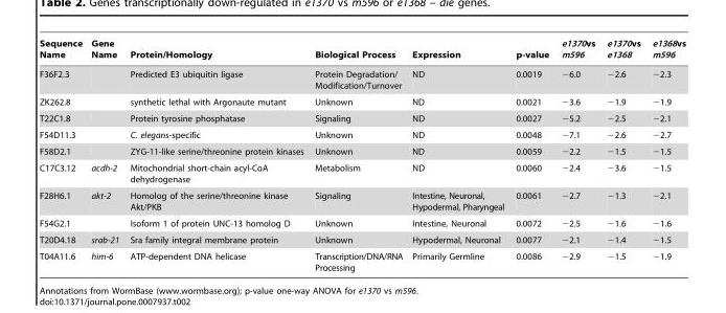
<table><thead><tr><td>Sequence Name</td><td>Gene Name</td><td>Protein/Homology</td><td>Biological Process</td><td>Expression</td><td>p-value</td><td>e1370vs m596</td><td>e1370vs e1368</td><td>e1368vs m596</td></tr></thead><tbody><tr><td>F36F2.3</td><td></td><td>Predicted E3 ubiquitin ligase</td><td>Protein Degradation/ Modification/Turnover</td><td>ND</td><td>0.0019</td><td>−6.0</td><td>−2.6</td><td>−2.3</td></tr><tr><td>ZK262.8</td><td></td><td>synthetic lethal with Argonaute mutant</td><td>Unknown</td><td>ND</td><td>0.0021</td><td>−3.6</td><td>−1.9</td><td>−1.9</td></tr><tr><td>T22C1.8</td><td></td><td>Protein tyrosine phosphatase</td><td>Signaling</td><td>ND</td><td>0.0027</td><td>−5.2</td><td>−2.5</td><td>−2.1</td></tr><tr><td>F54D11.3</td><td></td><td>C. elegans-specific</td><td>Unknown</td><td>ND</td><td>0.0048</td><td>−7.1</td><td>−2.6</td><td>−2.7</td></tr><tr><td>F58D2.1</td><td></td><td>ZYG-11-like serine/threonine protein kinases</td><td>Unknown</td><td>ND</td><td>0.0059</td><td>−2.2</td><td>−1.5</td><td>−1.5</td></tr><tr><td>C17C3.12</td><td>acdh-2</td><td>Mitochondrial short-chain acyl-CoA dehydrogenase</td><td>Metabolism</td><td>ND</td><td>0.0060</td><td>−2.4</td><td>−3.6</td><td>−1.5</td></tr><tr><td>F28H6.1</td><td>akt-2</td><td>Homolog of the serine/threonine kinase Akt/PKB</td><td>Signaling</td><td>Intestine, Neuronal, Hypodermal, Pharyngeal</td><td>0.0061</td><td>−2.7</td><td>−1.3</td><td>−2.1</td></tr><tr><td>F54G2.1</td><td></td><td>Isoform 1 of protein UNC-13 homolog D</td><td>Unknown</td><td>Intestine, Neuronal</td><td>0.0072</td><td>−2.5</td><td>−1.6</td><td>−1.6</td></tr><tr><td>T20D4.18</td><td>srab-21</td><td>Sra family integral membrane protein</td><td>Unknown</td><td>Hypodermal, Neuronal</td><td>0.0077</td><td>−2.1</td><td>−1.4</td><td>−1.5</td></tr><tr><td>T04A11.6</td><td>him-6</td><td>ATP-dependent DNA helicase</td><td>Transcription/DNA/RNA Processing</td><td>Primarily Germline</td><td>0.0086</td><td>−2.9</td><td>−1.5</td><td>−1.9</td></tr></tbody></table>